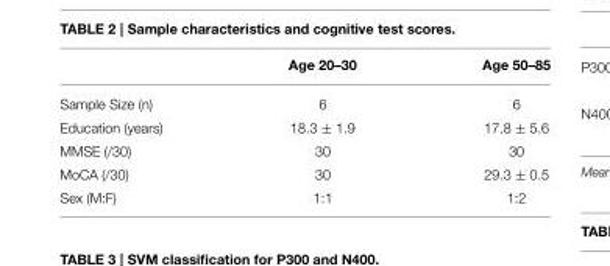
<table><thead><tr><td></td><td>Age 20–30</td><td>Age 50–85</td></tr></thead><tbody><tr><td>Sample Size (n)</td><td>6</td><td>6</td></tr><tr><td>Education (years)</td><td>18.3 ± 1.9</td><td>17.8 ± 5.6</td></tr><tr><td>MMSE (/30)</td><td>30</td><td>30</td></tr><tr><td>MoCA (/30)</td><td>30</td><td>29.3 ± 0.5</td></tr><tr><td>Sex (M:F)</td><td>1:1</td><td>1:2</td></tr></tbody></table>